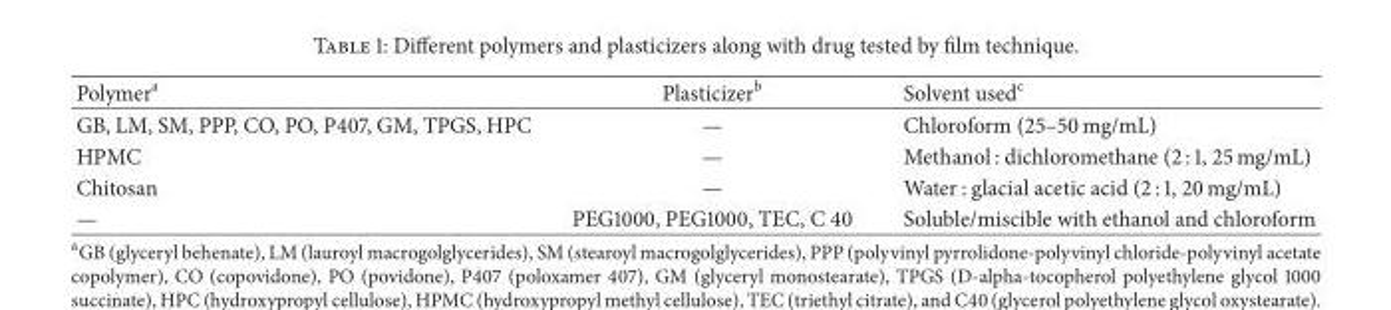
<table><thead><tr><td>Polymer<sup>a</sup></td><td>Plasticizer<sup>b</sup></td><td>Solvent used<sup>c</sup></td></tr></thead><tbody><tr><td>GB, LM, SM, PPP, CO, PO, P407, GM, TPGS, HPC</td><td>—</td><td>Chloroform (25–50 mg/mL)</td></tr><tr><td>HPMC</td><td>—</td><td>Methanol : dichloromethane (2 : 1, 25 mg/mL)</td></tr><tr><td>Chitosan</td><td>—</td><td>Water : glacial acetic acid (2 : 1, 20 mg/mL)</td></tr><tr><td>—</td><td>PEG1000, PEG1000, TEC, C 40</td><td>Soluble/miscible with ethanol and chloroform</td></tr></tbody></table>